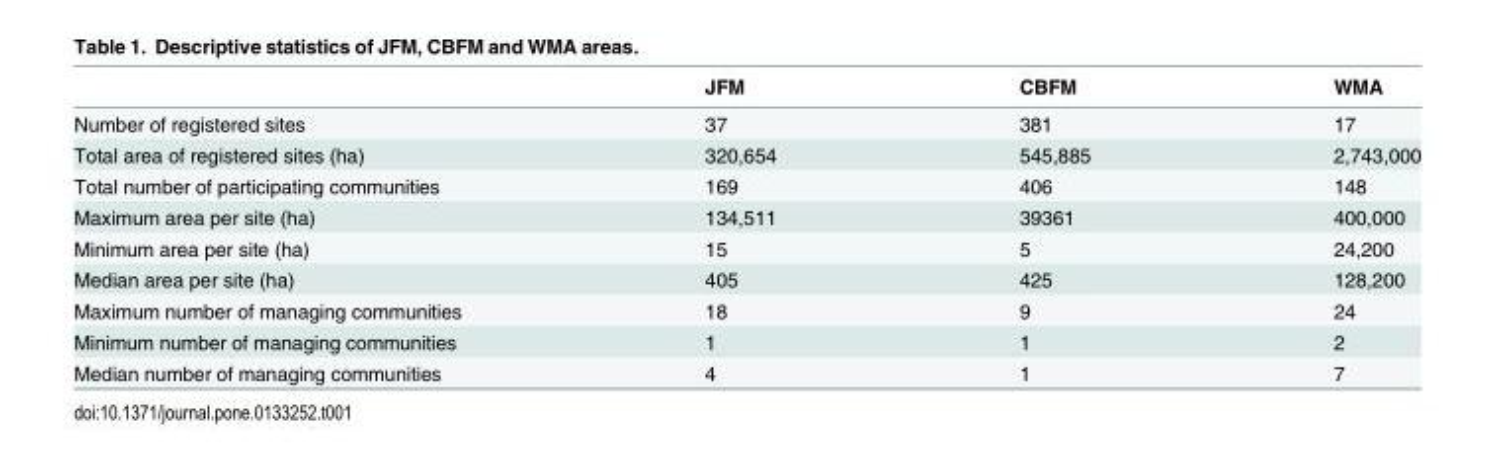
<table><thead><tr><td></td><td>JFM</td><td>CBFM</td><td>WMA</td></tr></thead><tbody><tr><td>Number of registered sites</td><td>37</td><td>381</td><td>17</td></tr><tr><td>Total area of registered sites (ha)</td><td>320,654</td><td>545,885</td><td>2,743,000</td></tr><tr><td>Total number of participating communities</td><td>169</td><td>406</td><td>148</td></tr><tr><td>Maximum area per site (ha)</td><td>134,511</td><td>39361</td><td>400,000</td></tr><tr><td>Minimum area per site (ha)</td><td>15</td><td>5</td><td>24,200</td></tr><tr><td>Median area per site (ha)</td><td>405</td><td>425</td><td>128,200</td></tr><tr><td>Maximum number of managing communities</td><td>18</td><td>9</td><td>24</td></tr><tr><td>Minimum number of managing communities</td><td>1</td><td>1</td><td>2</td></tr><tr><td>Median number of managing communities</td><td>4</td><td>1</td><td>7</td></tr></tbody></table>